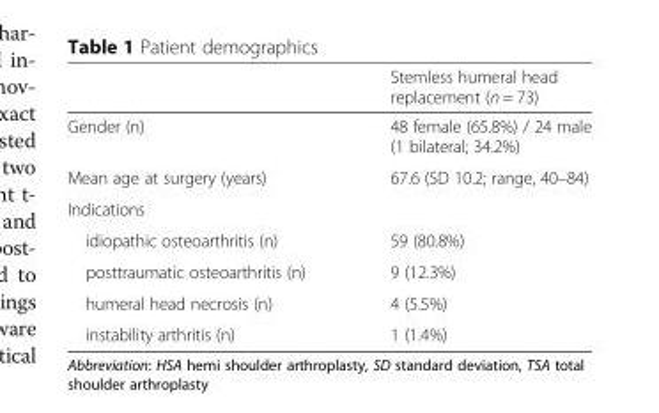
<table><thead><tr><td></td><td>Stemless humeral head replacement (n = 73)</td></tr></thead><tbody><tr><td>Gender (n)</td><td>48 female (65.8%) / 24 male (1 bilateral; 34.2%)</td></tr><tr><td>Mean age at surgery (years)</td><td>67.6 (SD 10.2; range, 40–84)</td></tr><tr><td colspan="2">Indications</td></tr><tr><td>idiopathic osteoarthritis (n)</td><td>59 (80.8%)</td></tr><tr><td>posttraumatic osteoarthritis (n)</td><td>9 (12.3%)</td></tr><tr><td>humeral head necrosis (n)</td><td>4 (5.5%)</td></tr><tr><td>instability arthritis (n)</td><td>1 (1.4%)</td></tr></tbody></table>